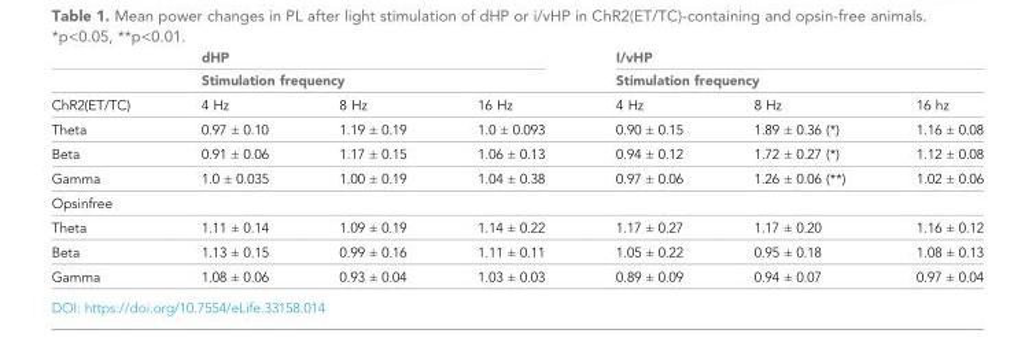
<table><thead><tr><td rowspan="3">ChR2(ET/TC)</td><td rowspan="2" colspan="3">dHP Stimulation frequency</td><td rowspan="2" colspan="3">I/vHP Stimulation frequency</td></tr><tr></tr><tr><td>4 Hz</td><td>8 Hz</td><td>16 Hz</td><td>4 Hz</td><td>8 Hz</td><td>16 hz</td></tr></thead><tbody><tr><td>Theta</td><td>0.97 ± 0.10</td><td>1.19 ± 0.19</td><td>1.0 ± 0.093</td><td>0.90 ± 0.15</td><td>1.89 ± 0.36 (*)</td><td>1.16 ± 0.08</td></tr><tr><td>Beta</td><td>0.91 ± 0.06</td><td>1.17 ± 0.15</td><td>1.06 ± 0.13</td><td>0.94 ± 0.12</td><td>1.72 ± 0.27 (*)</td><td>1.12 ± 0.08</td></tr><tr><td>Gamma</td><td>1.0 ± 0.035</td><td>1.00 ± 0.19</td><td>1.04 ± 0.38</td><td>0.97 ± 0.06</td><td>1.26 ± 0.06 (**)</td><td>1.02 ± 0.06</td></tr><tr><td colspan="7">Opsinfree</td></tr><tr><td>Theta</td><td>1.11 ± 0.14</td><td>1.09 ± 0.19</td><td>1.14 ± 0.22</td><td>1.17 ± 0.27</td><td>1.17 ± 0.20</td><td>1.16 ± 0.12</td></tr><tr><td>Beta</td><td>1.13 ± 0.15</td><td>0.99 ± 0.16</td><td>1.11 ± 0.11</td><td>1.05 ± 0.22</td><td>0.95 ± 0.18</td><td>1.08 ± 0.13</td></tr><tr><td>Gamma</td><td>1.08 ± 0.06</td><td>0.93 ± 0.04</td><td>1.03 ± 0.03</td><td>0.89 ± 0.09</td><td>0.94 ± 0.07</td><td>0.97 ± 0.04</td></tr></tbody></table>